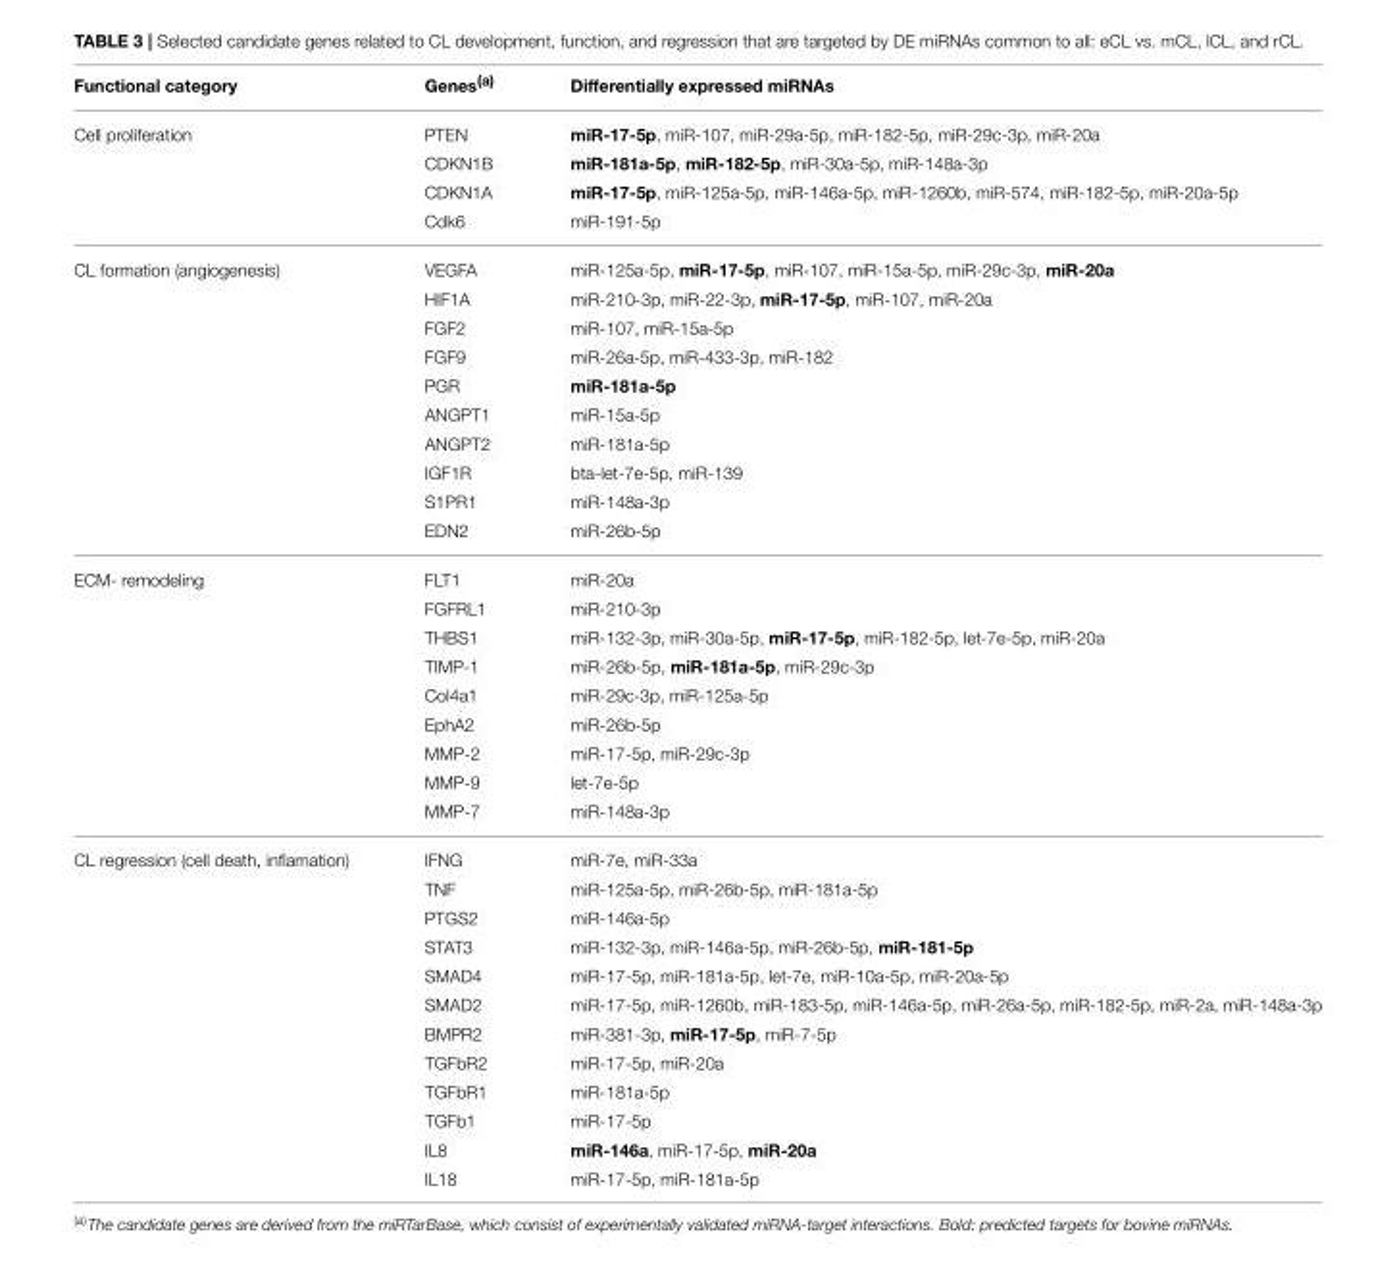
<table><thead><tr><td>Functional category</td><td>Genes<sup>(a)</sup></td><td>Differentially expressed miRNAs</td></tr></thead><tbody><tr><td rowspan="4">Cell proliferation</td><td>PTEN</td><td>miR-17-5p, miR-107, miR-29a-5p, miR-182-5p, miR-29c-3p, miR-20a</td></tr><tr><td>CDKN1B</td><td>miR-181a-5p, miR-182-5p, miR-30a-5p, miR-148a-3p</td></tr><tr><td>CDKN1A</td><td>miR-17-5p, miR-125a-5p, miR-146a-5p, miR-1260b, miR-574, miR-182-5p, miR-20a-5p</td></tr><tr><td>Cdk6</td><td>miR-191-5p</td></tr><tr><td rowspan="10">CL formation (angiogenesis)</td><td>VEGFA</td><td>miR-125a-5p, miR-17-5p, miR-107, miR-15a-5p, miR-29c-3p, miR-20a</td></tr><tr><td>HIF1A</td><td>miR-210-3p, miR-22-3p, miR-17-5p, miR-107, miR-20a</td></tr><tr><td>FGF2</td><td>miR-107, miR-15a-5p</td></tr><tr><td>FGF9</td><td>miR-26a-5p, miR-433-3p, miR-182</td></tr><tr><td>PGR</td><td>miR-181a-5p</td></tr><tr><td>ANGPT1</td><td>miR-15a-5p</td></tr><tr><td>ANGPT2</td><td>miR-181a-5p</td></tr><tr><td>IGF1R</td><td>bta-let-7e-5p, miR-139</td></tr><tr><td>S1PR1</td><td>miR-148a-3p</td></tr><tr><td>EDN2</td><td>miR-26b-5p</td></tr><tr><td rowspan="9">ECM- remodeling</td><td>FLT1</td><td>miR-20a</td></tr><tr><td>FGFRL1</td><td>miR-210-3p</td></tr><tr><td>THBS1</td><td>miR-132-3p, miR-30a-5p, miR-17-5p, miR-182-5p, let-7e-5p, miR-20a</td></tr><tr><td>TIMP-1</td><td>miR-26b-5p, miR-181a-5p, miR-29c-3p</td></tr><tr><td>Col4a1</td><td>miR-29c-3p, miR-125a-5p</td></tr><tr><td>EphA2</td><td>miR-26b-5p</td></tr><tr><td>MMP-2</td><td>miR-17-5p, miR-29c-3p</td></tr><tr><td>MMP-9</td><td>let-7e-5p</td></tr><tr><td>MMP-7</td><td>miR-148a-3p</td></tr><tr><td rowspan="12">CL regression (cell death, inflamation)</td><td>IFNG</td><td>miR-7e, miR-33a</td></tr><tr><td>TNF</td><td>miR-125a-5p, miR-26b-5p, miR-181a-5p</td></tr><tr><td>PTGS2</td><td>miR-146a-5p</td></tr><tr><td>STAT3</td><td>miR-132-3p, miR-146a-5p, miR-26b-5p, miR-181-5p</td></tr><tr><td>SMAD4</td><td>miR-17-5p, miR-181a-5p, let-7e, miR-10a-5p, miR-20a-5p</td></tr><tr><td>SMAD2</td><td>miR-17-5p, miR-1260b, miR-183-5p, miR-146a-5p, miR-26a-5p, miR-182-5p, miR-2a, miR-148a-3p</td></tr><tr><td>BMPR2</td><td>miR-381-3p, miR-17-5p, miR-7-5p</td></tr><tr><td>TGFbR2</td><td>miR-17-5p, miR-20a</td></tr><tr><td>TGFbR1</td><td>miR-181a-5p</td></tr><tr><td>TGFb1</td><td>miR-17-5p</td></tr><tr><td>IL8</td><td>miR-146a, miR-17-5p, miR-20a</td></tr><tr><td>IL18</td><td>miR-17-5p, miR-181a-5p</td></tr></tbody></table>